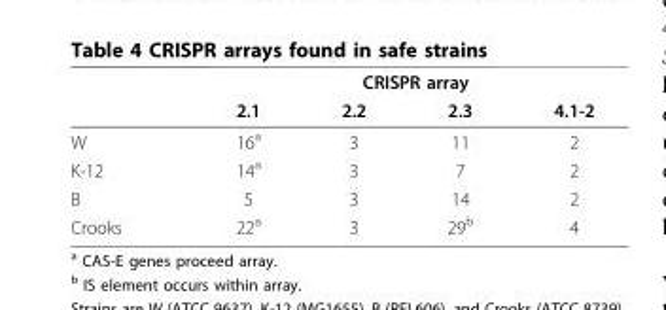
<table><thead><tr><td rowspan="2"></td><td colspan="4">CRISPR array</td></tr><tr><td>2.1</td><td>2.2</td><td>2.3</td><td>4.1-2</td></tr></thead><tbody><tr><td>W</td><td>16<sup>a</sup></td><td>3</td><td>11</td><td>2</td></tr><tr><td>K-12</td><td>14<sup>a</sup></td><td>3</td><td>7</td><td>2</td></tr><tr><td>B</td><td>5</td><td>3</td><td>14</td><td>2</td></tr><tr><td>Crooks</td><td>22<sup>a</sup></td><td>3</td><td>29<sup>b</sup></td><td>4</td></tr></tbody></table>